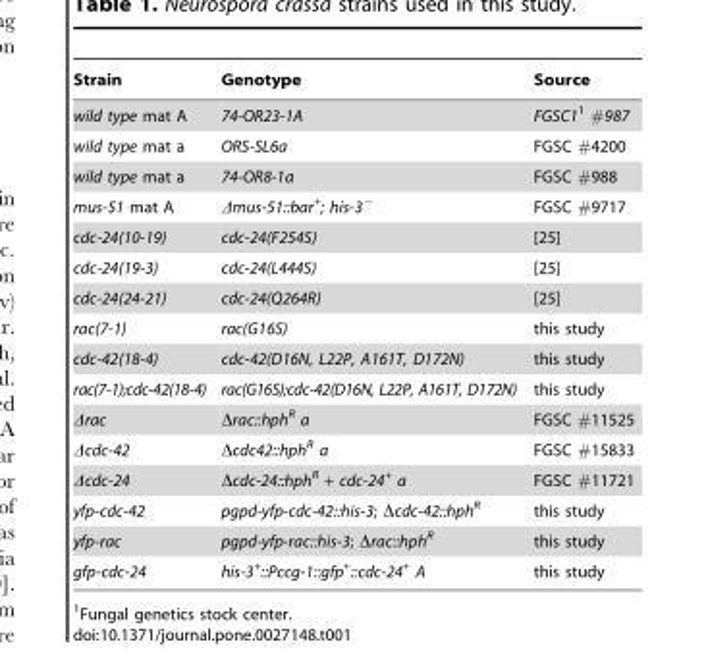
<table><thead><tr><td>Strain</td><td>Genotype</td><td>Source</td></tr></thead><tbody><tr><td>wild type mat A</td><td>74-OR23-1A</td><td>FGSC11 #987</td></tr><tr><td>wild type mat a</td><td>ORS-SL6a</td><td>FGSC #4200</td></tr><tr><td>wild type mat a</td><td>74-OR8-1a</td><td>FGSC #988</td></tr><tr><td>mus-51 mat A</td><td>Δmus-51::bar<sup>+</sup>; his-3<sup>−</sup></td><td>FGSC #9717</td></tr><tr><td>cdc-24(10-19)</td><td>cdc-24(F254S)</td><td>[25]</td></tr><tr><td>cdc-24(19-3)</td><td>cdc-24(L444S)</td><td>[25]</td></tr><tr><td>cdc-24(24-21)</td><td>cdc-24(Q264R)</td><td>[25]</td></tr><tr><td>rac(7-1)</td><td>rac(G16S)</td><td>this study</td></tr><tr><td>cdc-42(18-4)</td><td>cdc-42(D16N, L22P, A161T, D172N)</td><td>this study</td></tr><tr><td>rac(7-1);cdc-42(18-4)</td><td>rac(G16S);cdc-42(D16N, L22P, A161T, D172N)</td><td>this study</td></tr><tr><td>Δrac</td><td>Δrac::hph<sup>R</sup> a</td><td>FGSC #11525</td></tr><tr><td>Δcdc-42</td><td>Δcdc42::hph<sup>R</sup> a</td><td>FGSC #15833</td></tr><tr><td>Δcdc-24</td><td>Δcdc-24::hph<sup>R</sup> + cdc-24<sup>+</sup> a</td><td>FGSC #11721</td></tr><tr><td>yfp-cdc-42</td><td>pgpd-yfp-cdc-42::his-3; Δcdc-42::hph<sup>R</sup></td><td>this study</td></tr><tr><td>yfp-rac</td><td>pgpd-yfp-rac::his-3; Δrac::hph<sup>R</sup></td><td>this study</td></tr><tr><td>gfp-cdc-24</td><td>his-3<sup>+</sup>::Pccg-1::gfp<sup>+</sup>::cdc-24<sup>+</sup> A</td><td>this study</td></tr></tbody></table>